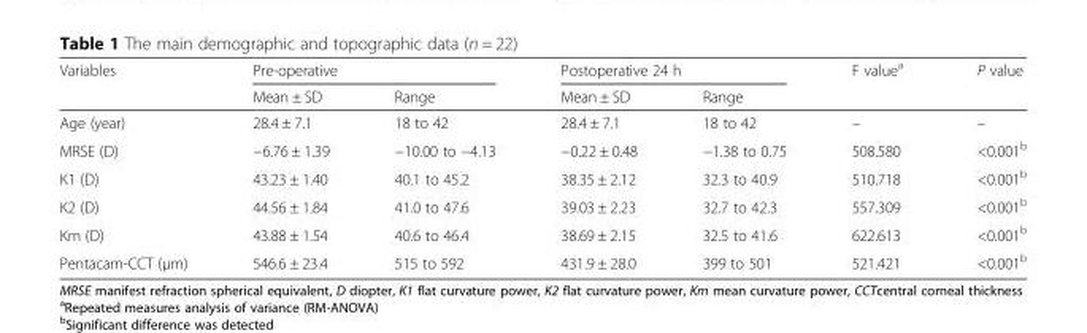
<table><thead><tr><td rowspan="2">Variables</td><td colspan="2">Pre-operative</td><td colspan="2">Postoperative 24 h</td><td rowspan="2">F value<sup>a</sup></td><td rowspan="2">P value</td></tr><tr><td>Mean ± SD</td><td>Range</td><td>Mean ± SD</td><td>Range</td></tr></thead><tbody><tr><td>Age (year)</td><td>28.4 ± 7.1</td><td>18 to 42</td><td>28.4 ± 7.1</td><td>18 to 42</td><td>–</td><td>–</td></tr><tr><td>MRSE (D)</td><td>−6.76 ± 1.39</td><td>−10.00 to −4.13</td><td>−0.22 ± 0.48</td><td>−1.38 to 0.75</td><td>508.580</td><td>&lt;0.001<sup>b</sup></td></tr><tr><td>K1 (D)</td><td>43.23 ± 1.40</td><td>40.1 to 45.2</td><td>38.35 ± 2.12</td><td>32.3 to 40.9</td><td>510.718</td><td>&lt;0.001<sup>b</sup></td></tr><tr><td>K2 (D)</td><td>44.56 ± 1.84</td><td>41.0 to 47.6</td><td>39.03 ± 2.23</td><td>32.7 to 42.3</td><td>557.309</td><td>&lt;0.001<sup>b</sup></td></tr><tr><td>Km (D)</td><td>43.88 ± 1.54</td><td>40.6 to 46.4</td><td>38.69 ± 2.15</td><td>32.5 to 41.6</td><td>622.613</td><td>&lt;0.001<sup>b</sup></td></tr><tr><td>Pentacam-CCT (μm)</td><td>546.6 ± 23.4</td><td>515 to 592</td><td>431.9 ± 28.0</td><td>399 to 501</td><td>521.421</td><td>&lt;0.001<sup>b</sup></td></tr></tbody></table>